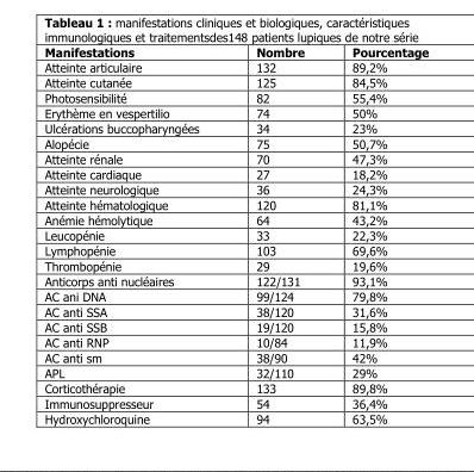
<table><thead><tr><td>Manifestations</td><td>Nombre</td><td>Pourcentage</td></tr></thead><tbody><tr><td>Atteinte articulaire</td><td>132</td><td>89,2%</td></tr><tr><td>Atteinte cutanée</td><td>125</td><td>84,5%</td></tr><tr><td>Photosensibilité</td><td>82</td><td>55,4%</td></tr><tr><td>Erythème en vespertilio</td><td>74</td><td>50%</td></tr><tr><td>Ulcérations buccopharyngées</td><td>34</td><td>23%</td></tr><tr><td>Alopécie</td><td>75</td><td>50,7%</td></tr><tr><td>Atteinte rénale</td><td>70</td><td>47,3%</td></tr><tr><td>Atteinte cardiaque</td><td>27</td><td>18,2%</td></tr><tr><td>Atteinte neurologique</td><td>36</td><td>24,3%</td></tr><tr><td>Atteinte hématologique</td><td>120</td><td>81,1%</td></tr><tr><td>Anémie hémolytique</td><td>64</td><td>43,2%</td></tr><tr><td>Leucopénie</td><td>33</td><td>22,3%</td></tr><tr><td>Lymphopénie</td><td>103</td><td>69,6%</td></tr><tr><td>Thrombopénie</td><td>29</td><td>19,6%</td></tr><tr><td>Anticorps anti nucléaires</td><td>122/131</td><td>93,1%</td></tr><tr><td>AC ani DNA</td><td>99/124</td><td>79,8%</td></tr><tr><td>AC anti SSA</td><td>38/120</td><td>31,6%</td></tr><tr><td>AC anti SSB</td><td>19/120</td><td>15,8%</td></tr><tr><td>AC anti RNP</td><td>10/84</td><td>11,9%</td></tr><tr><td>AC anti sm</td><td>38/90</td><td>42%</td></tr><tr><td>APL</td><td>32/110</td><td>29%</td></tr><tr><td>Corticothérapie</td><td>133</td><td>89,8%</td></tr><tr><td>Immunosuppresseur</td><td>54</td><td>36,4%</td></tr><tr><td>Hydroxychloroquine</td><td>94</td><td>63,5%</td></tr></tbody></table>